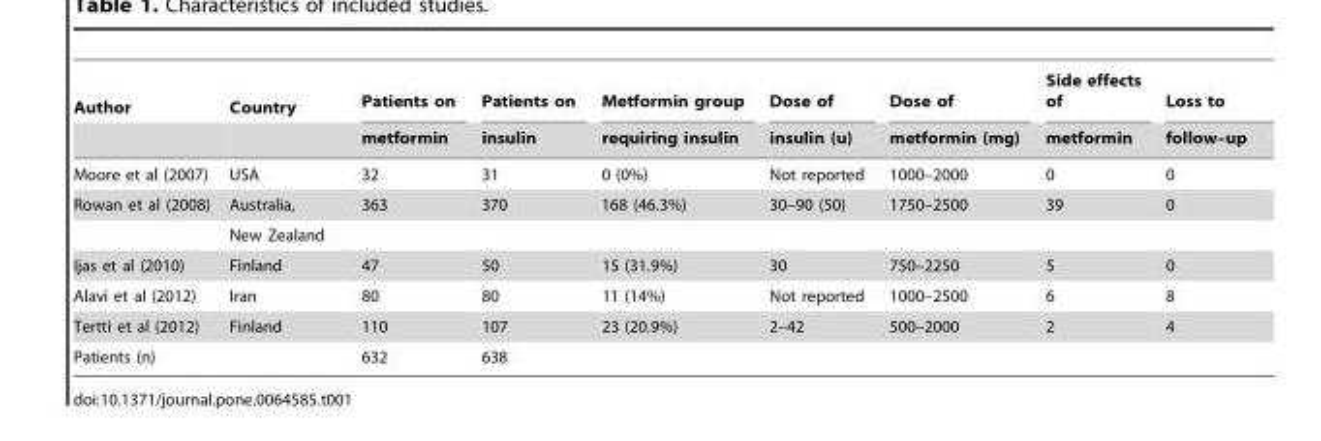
<table><thead><tr><td rowspan="2">Author</td><td rowspan="2">Country</td><td rowspan="2">Patients on metformin</td><td rowspan="2">Patients on insulin</td><td rowspan="2">Metformin group requiring insulin</td><td rowspan="2">Dose of insulin (u)</td><td rowspan="2">Dose of metformin (mg)</td><td rowspan="2">Side effects of metformin</td><td rowspan="2">Loss to follow–up</td></tr><tr></tr></thead><tbody><tr><td>Moore et al (2007)</td><td>USA</td><td>32</td><td>31</td><td>0 (0%)</td><td>Not reported</td><td>1000–2000</td><td>0</td><td>0</td></tr><tr><td rowspan="2">Rowan et al (2008)</td><td>Australia,</td><td>363</td><td>370</td><td>168 (46.3%)</td><td>30–90 (50)</td><td>1750–2500</td><td>39</td><td>0</td></tr><tr><td>New Zealand</td><td></td><td></td><td></td><td></td><td></td><td></td><td></td></tr><tr><td>Ijas et al (2010)</td><td>Finland</td><td>47</td><td>50</td><td>15 (31.9%)</td><td>30</td><td>750–2250</td><td>5</td><td>0</td></tr><tr><td>Alavi et al (2012)</td><td>Iran</td><td>80</td><td>80</td><td>11 (14%)</td><td>Not reported</td><td>1000–2500</td><td>6</td><td>8</td></tr><tr><td>Tertti et al (2012)</td><td>Finland</td><td>110</td><td>107</td><td>23 (20.9%)</td><td>2–42</td><td>500–2000</td><td>2</td><td>4</td></tr><tr><td>Patients (n)</td><td></td><td>632</td><td>638</td><td></td><td></td><td></td><td></td><td></td></tr></tbody></table>